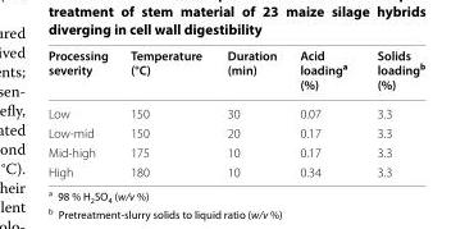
<table><thead><tr><td>Processing severity</td><td>Temperature (°C)</td><td>Duration (min)</td><td>Acid loading<sup>a</sup> (%)</td><td>Solids loading<sup>b</sup> (%)</td></tr></thead><tbody><tr><td>Low</td><td>150</td><td>30</td><td>0.07</td><td>3.3</td></tr><tr><td>Low‑mid</td><td>150</td><td>20</td><td>0.17</td><td>3.3</td></tr><tr><td>Mid‑high</td><td>175</td><td>10</td><td>0.17</td><td>3.3</td></tr><tr><td>High</td><td>180</td><td>10</td><td>0.34</td><td>3.3</td></tr></tbody></table>